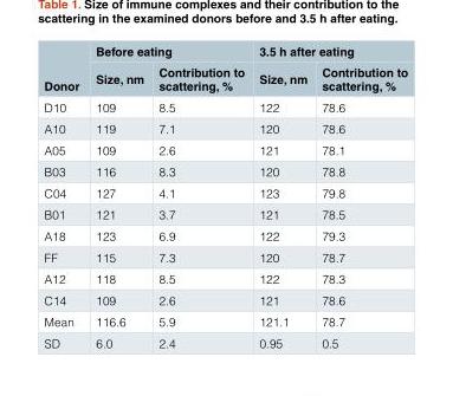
<table><thead><tr><td rowspan="2">Donor</td><td colspan="2">Before eating</td><td colspan="2">3.5 h after eating</td></tr><tr><td>Size, nm</td><td>Contribution to scattering, %</td><td>Size, nm</td><td>Contribution to scattering, %</td></tr></thead><tbody><tr><td>D10</td><td>109</td><td>8.5</td><td>122</td><td>78.6</td></tr><tr><td>A10</td><td>119</td><td>7.1</td><td>120</td><td>78.6</td></tr><tr><td>A05</td><td>109</td><td>2.6</td><td>121</td><td>78.1</td></tr><tr><td>B03</td><td>116</td><td>8.3</td><td>120</td><td>78.8</td></tr><tr><td>C04</td><td>127</td><td>4.1</td><td>123</td><td>79.8</td></tr><tr><td>B01</td><td>121</td><td>3.7</td><td>121</td><td>78.5</td></tr><tr><td>A18</td><td>123</td><td>6.9</td><td>122</td><td>79.3</td></tr><tr><td>FF</td><td>115</td><td>7.3</td><td>120</td><td>78.7</td></tr><tr><td>A12</td><td>118</td><td>8.5</td><td>122</td><td>78.3</td></tr><tr><td>C14</td><td>109</td><td>2.6</td><td>121</td><td>78.6</td></tr><tr><td>Mean</td><td>116.6</td><td>5.9</td><td>121.1</td><td>78.7</td></tr><tr><td>SD</td><td>6.0</td><td>2.4</td><td>0.95</td><td>0.5</td></tr></tbody></table>